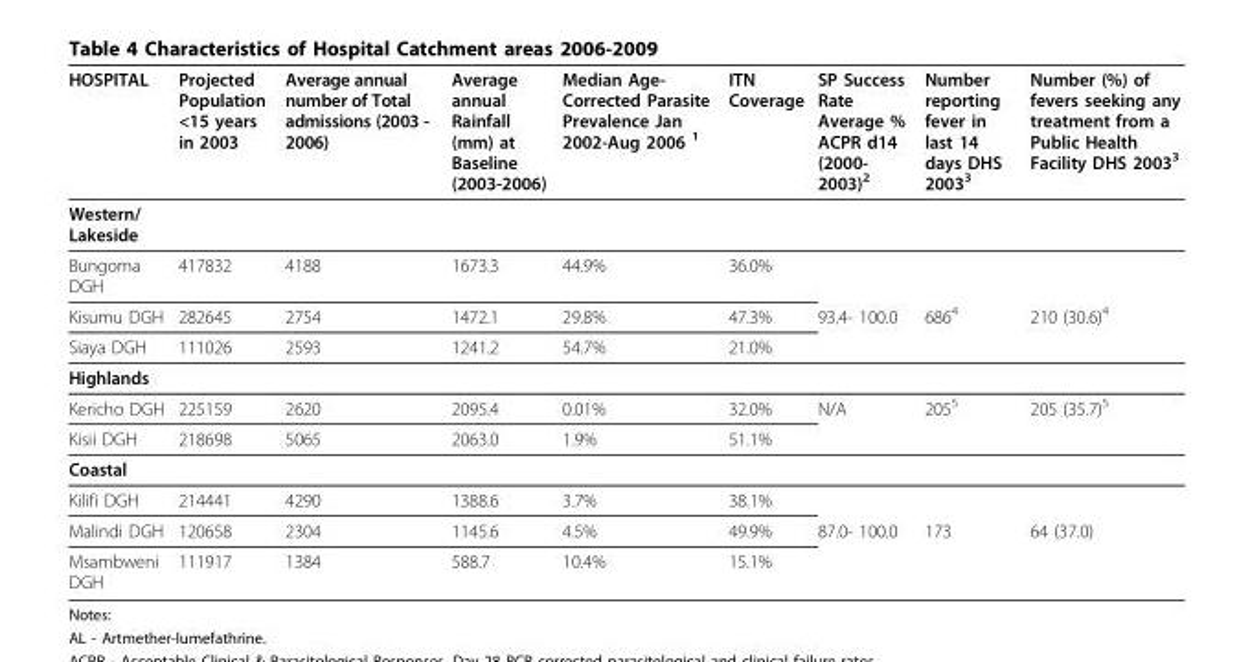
<table><thead><tr><td>HOSPITAL</td><td>Projected Population &lt;15 years in 2003</td><td>Average annual number of Total admissions (2003 - 2006)</td><td>Average annual Rainfall (mm) at Baseline (2003-2006)</td><td>Median Age- Corrected Parasite Prevalence Jan 2002-Aug 2006 <sup>1</sup></td><td>ITN Coverage</td><td>SP Success Rate Average % ACPR d14 (2000- 2003)<sup>2</sup></td><td>Number reporting fever in last 14 days DHS 2003<sup>3</sup></td><td>Number (%) of fevers seeking any treatment from a Public Health Facility DHS 2003<sup>3</sup></td></tr></thead><tbody><tr><td colspan="9">Western/ Lakeside</td></tr><tr><td>Bungoma DGH</td><td>417832</td><td>4188</td><td>1673.3</td><td>44.9%</td><td>36.0%</td><td></td><td></td><td></td></tr><tr><td>Kisumu DGH</td><td>282645</td><td>2754</td><td>1472.1</td><td>29.8%</td><td>47.3%</td><td>93.4- 100.0</td><td>686<sup>4</sup></td><td>210 (30.6)<sup>4</sup></td></tr><tr><td>Siaya DGH</td><td>111026</td><td>2593</td><td>1241.2</td><td>54.7%</td><td>21.0%</td><td></td><td></td><td></td></tr><tr><td colspan="9">Highlands</td></tr><tr><td>Kericho DGH</td><td>225159</td><td>2620</td><td>2095.4</td><td>0.01%</td><td>32.0%</td><td>N/A</td><td>205<sup>5</sup></td><td>205 (35.7)<sup>5</sup></td></tr><tr><td>Kisii DGH</td><td>218698</td><td>5065</td><td>2063.0</td><td>1.9%</td><td>51.1%</td><td></td><td></td><td></td></tr><tr><td colspan="9">Coastal</td></tr><tr><td>Kilifi DGH</td><td>214441</td><td>4290</td><td>1388.6</td><td>3.7%</td><td>38.1%</td><td></td><td></td><td></td></tr><tr><td>Malindi DGH</td><td>120658</td><td>2304</td><td>1145.6</td><td>4.5%</td><td>49.9%</td><td>87.0- 100.0</td><td>173</td><td>64 (37.0)</td></tr><tr><td>Msambweni DGH</td><td>111917</td><td>1384</td><td>588.7</td><td>10.4%</td><td>15.1%</td><td></td><td></td><td></td></tr></tbody></table>